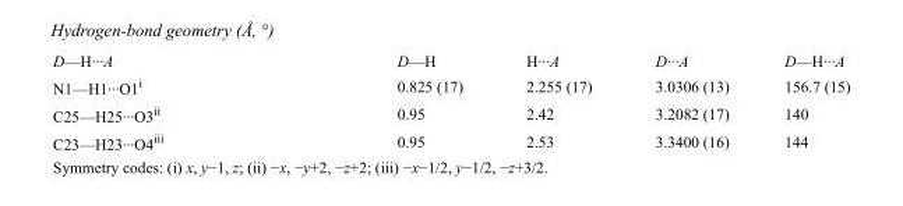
<table><tbody><tr><td>D—H···A</td><td>D—H</td><td>H···A</td><td>D···A</td><td>D—H···A</td></tr><tr><td>N1—H1···O1<sup>i</sup></td><td>0.825 (17)</td><td>2.255 (17)</td><td>3.0306 (13)</td><td>156.7 (15)</td></tr><tr><td>C25—H25···O3<sup>ii</sup></td><td>0.95</td><td>2.42</td><td>3.2082 (17)</td><td>140</td></tr><tr><td>C23—H23···O4<sup>iii</sup></td><td>0.95</td><td>2.53</td><td>3.3400 (16)</td><td>144</td></tr></tbody></table>